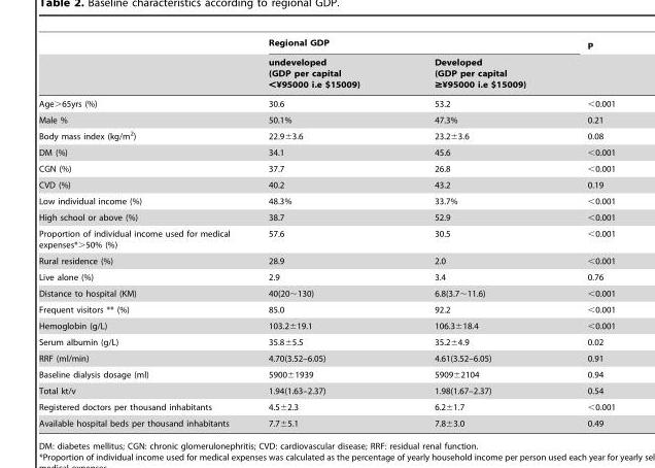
<table><thead><tr><td rowspan="2"></td><td colspan="2">Regional GDP</td><td rowspan="2">P</td></tr><tr><td>undeveloped (GDP per capital &lt;¥95000 i.e $15009)</td><td>Developed (GDP per capital ≥¥95000 i.e $15009)</td></tr></thead><tbody><tr><td>Age&gt;65yrs (%)</td><td>30.6</td><td>53.2</td><td>&lt;0.001</td></tr><tr><td>Male %</td><td>50.1%</td><td>47.3%</td><td>0.21</td></tr><tr><td>Body mass index (kg/m<sup>2</sup>)</td><td>22.9±3.6</td><td>23.2±3.6</td><td>0.08</td></tr><tr><td>DM (%)</td><td>34.1</td><td>45.6</td><td>&lt;0.001</td></tr><tr><td>CGN (%)</td><td>37.7</td><td>26.8</td><td>&lt;0.001</td></tr><tr><td>CVD (%)</td><td>40.2</td><td>43.2</td><td>0.19</td></tr><tr><td>Low individual income (%)</td><td>48.3%</td><td>33.7%</td><td>&lt;0.001</td></tr><tr><td>High school or above (%)</td><td>38.7</td><td>52.9</td><td>&lt;0.001</td></tr><tr><td>Proportion of individual income used for medical expenses*&gt;50% (%)</td><td>57.6</td><td>30.5</td><td>&lt;0.001</td></tr><tr><td>Rural residence (%)</td><td>28.9</td><td>2.0</td><td>&lt;0.001</td></tr><tr><td>Live alone (%)</td><td>2.9</td><td>3.4</td><td>0.76</td></tr><tr><td>Distance to hospital (KM)</td><td>40(20∼130)</td><td>6.8(3.7∼11.6)</td><td>&lt;0.001</td></tr><tr><td>Frequent visitors ** (%)</td><td>85.0</td><td>92.2</td><td>&lt;0.001</td></tr><tr><td>Hemoglobin (g/L)</td><td>103.2±19.1</td><td>106.3±18.4</td><td>&lt;0.001</td></tr><tr><td>Serum albumin (g/L)</td><td>35.8±5.5</td><td>35.2±4.9</td><td>0.02</td></tr><tr><td>RRF (ml/min)</td><td>4.70(3.52–6.05)</td><td>4.61(3.52–6.05)</td><td>0.91</td></tr><tr><td>Baseline dialysis dosage (ml)</td><td>5900±1939</td><td>5909±2104</td><td>0.94</td></tr><tr><td>Total kt/v</td><td>1.94(1.63–2.37)</td><td>1.98(1.67–2.37)</td><td>0.54</td></tr><tr><td>Registered doctors per thousand inhabitants</td><td>4.5±2.3</td><td>6.2±1.7</td><td>&lt;0.001</td></tr><tr><td>Available hospital beds per thousand inhabitants</td><td>7.7±5.1</td><td>7.8±3.0</td><td>0.49</td></tr></tbody></table>